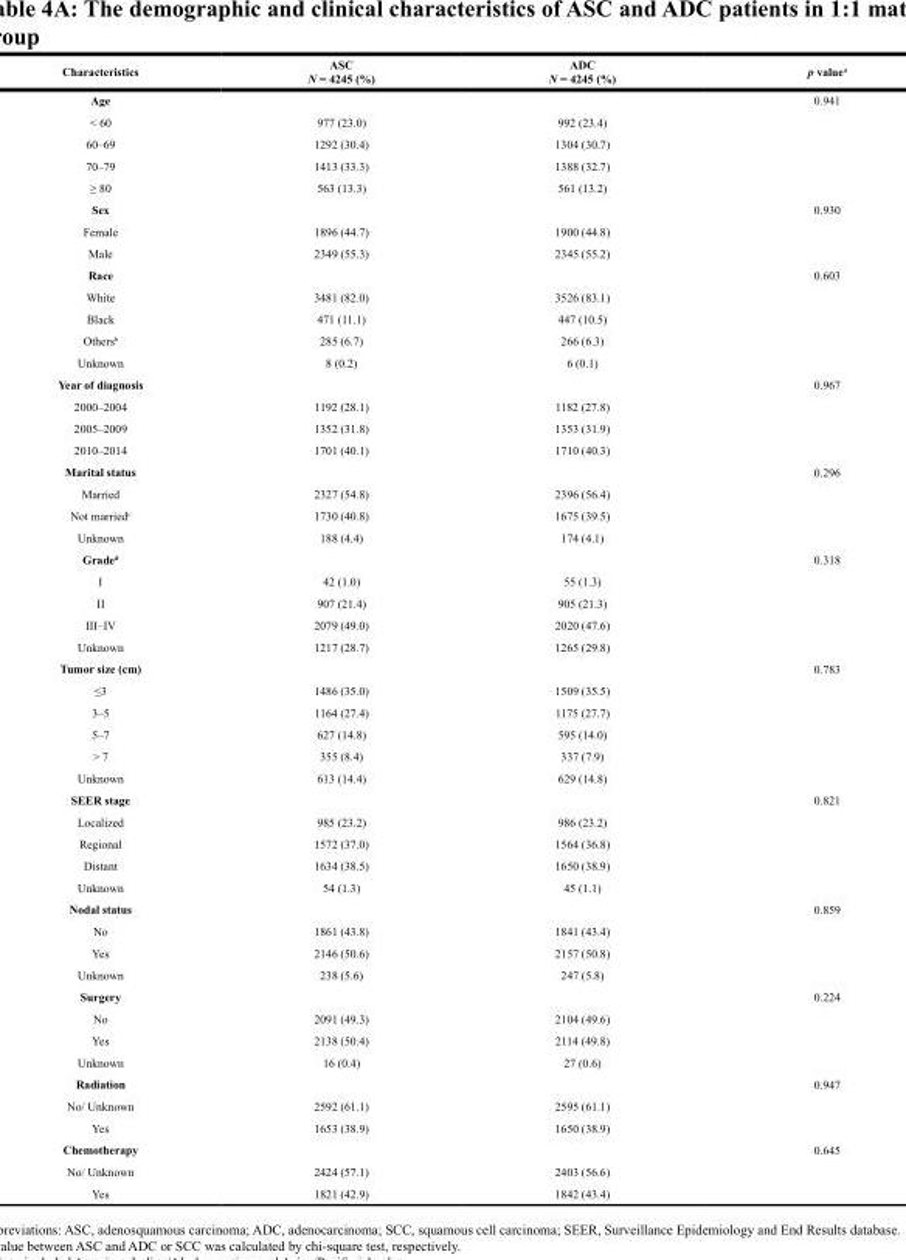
<table><thead><tr><td>Characteristics</td><td>ASC N = 4245 (%)</td><td>ADC N = 4245 (%)</td><td>p value<sup>a</sup></td></tr></thead><tbody><tr><td>Age</td><td></td><td></td><td>0.941</td></tr><tr><td>&lt; 60</td><td>977 (23.0)</td><td>992 (23.4)</td><td></td></tr><tr><td>60–69</td><td>1292 (30.4)</td><td>1304 (30.7)</td><td></td></tr><tr><td>70–79</td><td>1413 (33.3)</td><td>1388 (32.7)</td><td></td></tr><tr><td>≥ 80</td><td>563 (13.3)</td><td>561 (13.2)</td><td></td></tr><tr><td>Sex</td><td></td><td></td><td>0.930</td></tr><tr><td>Female</td><td>1896 (44.7)</td><td>1900 (44.8)</td><td></td></tr><tr><td>Male</td><td>2349 (55.3)</td><td>2345 (55.2)</td><td></td></tr><tr><td>Race</td><td></td><td></td><td>0.603</td></tr><tr><td>White</td><td>3481 (82.0)</td><td>3526 (83.1)</td><td></td></tr><tr><td>Black</td><td>471 (11.1)</td><td>447 (10.5)</td><td></td></tr><tr><td>Others<sup>b</sup></td><td>285 (6.7)</td><td>266 (6.3)</td><td></td></tr><tr><td>Unknown</td><td>8 (0.2)</td><td>6 (0.1)</td><td></td></tr><tr><td>Year of diagnosis</td><td></td><td></td><td>0.967</td></tr><tr><td>2000–2004</td><td>1192 (28.1)</td><td>1182 (27.8)</td><td></td></tr><tr><td>2005–2009</td><td>1352 (31.8)</td><td>1353 (31.9)</td><td></td></tr><tr><td>2010–2014</td><td>1701 (40.1)</td><td>1710 (40.3)</td><td></td></tr><tr><td>Marital status</td><td></td><td></td><td>0.296</td></tr><tr><td>Married</td><td>2327 (54.8)</td><td>2396 (56.4)</td><td></td></tr><tr><td>Not married<sup>c</sup></td><td>1730 (40.8)</td><td>1675 (39.5)</td><td></td></tr><tr><td>Unknown</td><td>188 (4.4)</td><td>174 (4.1)</td><td></td></tr><tr><td>Grade<sup>d</sup></td><td></td><td></td><td>0.318</td></tr><tr><td>I</td><td>42 (1.0)</td><td>55 (1.3)</td><td></td></tr><tr><td>II</td><td>907 (21.4)</td><td>905 (21.3)</td><td></td></tr><tr><td>III–IV</td><td>2079 (49.0)</td><td>2020 (47.6)</td><td></td></tr><tr><td>Unknown</td><td>1217 (28.7)</td><td>1265 (29.8)</td><td></td></tr><tr><td>Tumor size (cm)</td><td></td><td></td><td>0.783</td></tr><tr><td>≤3</td><td>1486 (35.0)</td><td>1509 (35.5)</td><td></td></tr><tr><td>3–5</td><td>1164 (27.4)</td><td>1175 (27.7)</td><td></td></tr><tr><td>5–7</td><td>627 (14.8)</td><td>595 (14.0)</td><td></td></tr><tr><td>&gt; 7</td><td>355 (8.4)</td><td>337 (7.9)</td><td></td></tr><tr><td>Unknown</td><td>613 (14.4)</td><td>629 (14.8)</td><td></td></tr><tr><td>SEER stage</td><td></td><td></td><td>0.821</td></tr><tr><td>Localized</td><td>985 (23.2)</td><td>986 (23.2)</td><td></td></tr><tr><td>Regional</td><td>1572 (37.0)</td><td>1564 (36.8)</td><td></td></tr><tr><td>Distant</td><td>1634 (38.5)</td><td>1650 (38.9)</td><td></td></tr><tr><td>Unknown</td><td>54 (1.3)</td><td>45 (1.1)</td><td></td></tr><tr><td>Nodal status</td><td></td><td></td><td>0.859</td></tr><tr><td>No</td><td>1861 (43.8)</td><td>1841 (43.4)</td><td></td></tr><tr><td>Yes</td><td>2146 (50.6)</td><td>2157 (50.8)</td><td></td></tr><tr><td>Unknown</td><td>238 (5.6)</td><td>247 (5.8)</td><td></td></tr><tr><td>Surgery</td><td></td><td></td><td>0.224</td></tr><tr><td>No</td><td>2091 (49.3)</td><td>2104 (49.6)</td><td></td></tr><tr><td>Yes</td><td>2138 (50.4)</td><td>2114 (49.8)</td><td></td></tr><tr><td>Unknown</td><td>16 (0.4)</td><td>27 (0.6)</td><td></td></tr><tr><td>Radiation</td><td></td><td></td><td>0.947</td></tr><tr><td>No/ Unknown</td><td>2592 (61.1)</td><td>2595 (61.1)</td><td></td></tr><tr><td>Yes</td><td>1653 (38.9)</td><td>1650 (38.9)</td><td></td></tr><tr><td>Chemotherapy</td><td></td><td></td><td>0.645</td></tr><tr><td>No/ Unknown</td><td>2424 (57.1)</td><td>2403 (56.6)</td><td></td></tr><tr><td>Yes</td><td>1821 (42.9)</td><td>1842 (43.4)</td><td></td></tr></tbody></table>